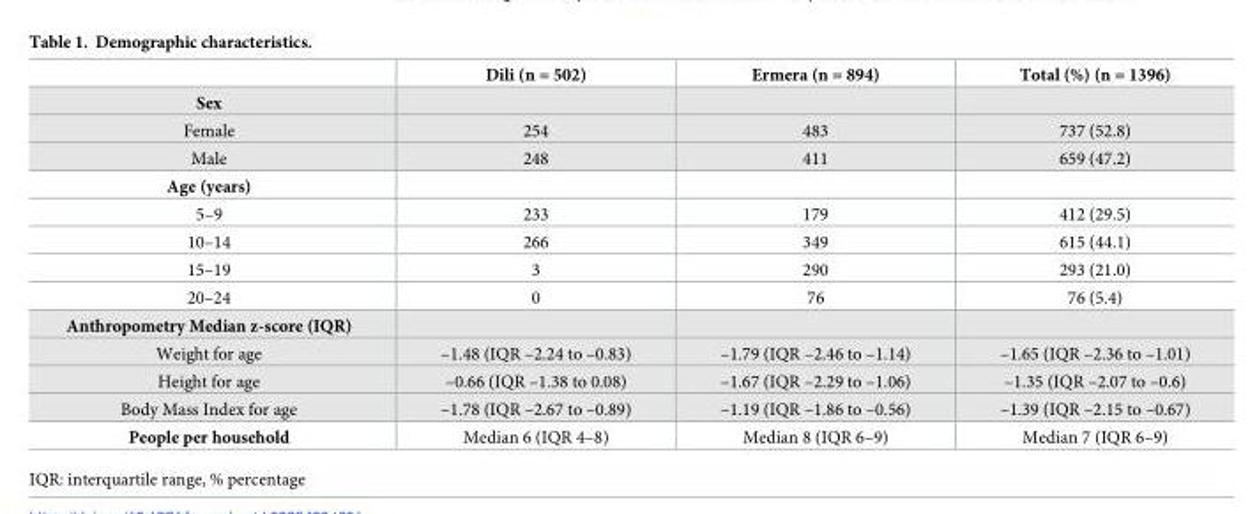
<table><thead><tr><td></td><td>Dili (n = 502)</td><td>Ermera (n = 894)</td><td>Total (%) (n = 1396)</td></tr></thead><tbody><tr><td colspan="4">Sex</td></tr><tr><td>Female</td><td>254</td><td>483</td><td>737 (52.8)</td></tr><tr><td>Male</td><td>248</td><td>411</td><td>659 (47.2)</td></tr><tr><td colspan="4">Age (years)</td></tr><tr><td>5–9</td><td>233</td><td>179</td><td>412 (29.5)</td></tr><tr><td>10–14</td><td>266</td><td>349</td><td>615 (44.1)</td></tr><tr><td>15–19</td><td>3</td><td>290</td><td>293 (21.0)</td></tr><tr><td>20–24</td><td>0</td><td>76</td><td>76 (5.4)</td></tr><tr><td colspan="4">Anthropometry Median z-score (IQR)</td></tr><tr><td>Weight for age</td><td>–1.48 (IQR –2.24 to –0.83)</td><td>–1.79 (IQR –2.46 to –1.14)</td><td>–1.65 (IQR –2.36 to –1.01)</td></tr><tr><td>Height for age</td><td>–0.66 (IQR –1.38 to 0.08)</td><td>–1.67 (IQR –2.29 to –1.06)</td><td>–1.35 (IQR –2.07 to –0.6)</td></tr><tr><td>Body Mass Index for age</td><td>–1.78 (IQR –2.67 to –0.89)</td><td>–1.19 (IQR –1.86 to –0.56)</td><td>–1.39 (IQR –2.15 to –0.67)</td></tr><tr><td>People per household</td><td>Median 6 (IQR 4–8)</td><td>Median 8 (IQR 6–9)</td><td>Median 7 (IQR 6–9)</td></tr></tbody></table>